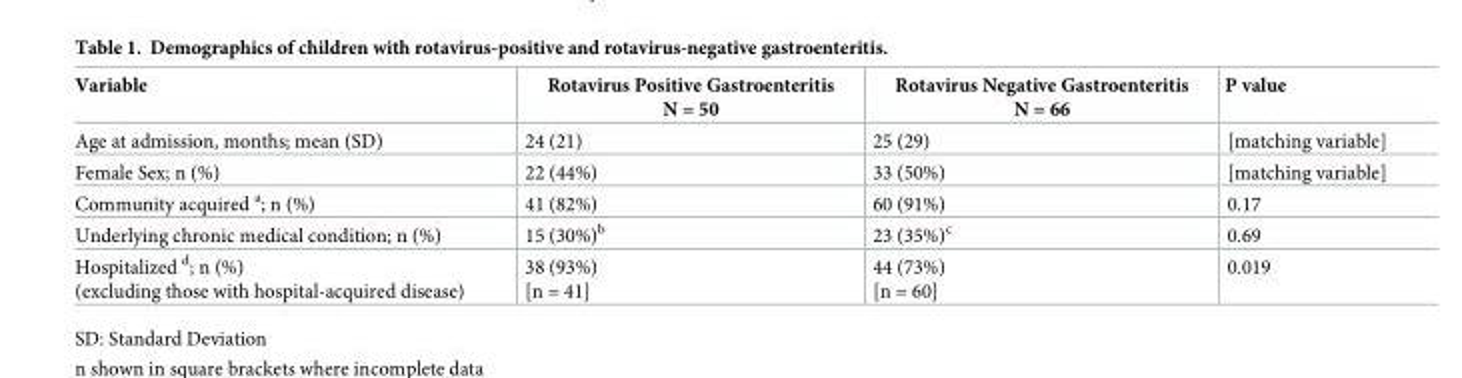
<table><thead><tr><td>Variable</td><td>Rotavirus Positive Gastroenteritis N = 50</td><td>Rotavirus Negative Gastroenteritis N = 66</td><td>P value</td></tr></thead><tbody><tr><td>Age at admission, months; mean (SD)</td><td>24 (21)</td><td>25 (29)</td><td>[matching variable]</td></tr><tr><td>Female Sex; n (%)</td><td>22 (44%)</td><td>33 (50%)</td><td>[matching variable]</td></tr><tr><td>Community acquired <sup>a</sup>; n (%)</td><td>41 (82%)</td><td>60 (91%)</td><td>0.17</td></tr><tr><td>Underlying chronic medical condition; n (%)</td><td>15 (30%)<sup>b</sup></td><td>23 (35%)<sup>c</sup></td><td>0.69</td></tr><tr><td>Hospitalized <sup>d</sup>; n (%) (excluding those with hospital-acquired disease)</td><td>38 (93%) [n = 41]</td><td>44 (73%) [n = 60]</td><td>0.019</td></tr></tbody></table>